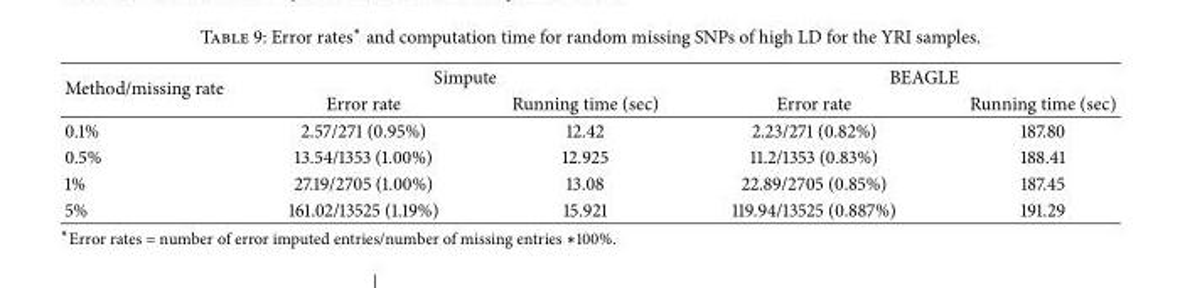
<table><thead><tr><td rowspan="2">Method/missing rate</td><td colspan="2">Simpute</td><td colspan="2">BEAGLE</td></tr><tr><td>Error rate</td><td>Running time (sec)</td><td>Error rate</td><td>Running time (sec)</td></tr></thead><tbody><tr><td>0.1%</td><td>2.57/271 (0.95%)</td><td>12.42</td><td>2.23/271 (0.82%)</td><td>187.80</td></tr><tr><td>0.5%</td><td>13.54/1353 (1.00%)</td><td>12.925</td><td>11.2/1353 (0.83%)</td><td>188.41</td></tr><tr><td>1%</td><td>27.19/2705 (1.00%)</td><td>13.08</td><td>22.89/2705 (0.85%)</td><td>187.45</td></tr><tr><td>5%</td><td>161.02/13525 (1.19%)</td><td>15.921</td><td>119.94/13525 (0.887%)</td><td>191.29</td></tr></tbody></table>